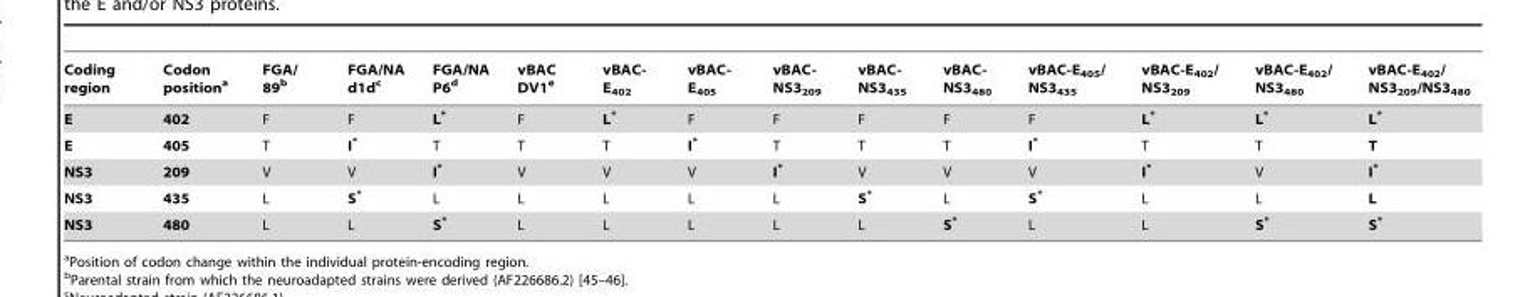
<table><thead><tr><td>Coding region</td><td>Codon position<sup>a</sup></td><td>FGA/ 89<sup>b</sup></td><td>FGA/NA d1d<sup>c</sup></td><td>FGA/NA P6<sup>d</sup></td><td>vBAC DV1<sup>e</sup></td><td>vBAC- E<sub>402</sub></td><td>vBAC- E<sub>405</sub></td><td>vBAC- NS3<sub>209</sub></td><td>vBAC- NS3<sub>435</sub></td><td>vBAC- NS3<sub>480</sub></td><td>vBAC-E<sub>405</sub>/ NS3<sub>435</sub></td><td>vBAC-E<sub>402</sub>/ NS3<sub>209</sub></td><td>vBAC-E<sub>402</sub>/ NS3<sub>480</sub></td><td>vBAC-E<sub>402</sub>/ NS3<sub>209</sub>/NS3<sub>480</sub></td></tr></thead><tbody><tr><td>E</td><td>402</td><td>F</td><td>F</td><td>L*</td><td>F</td><td>L*</td><td>F</td><td>F</td><td>F</td><td>F</td><td>F</td><td>L*</td><td>L*</td><td>L*</td></tr><tr><td>E</td><td>405</td><td>T</td><td>I*</td><td>T</td><td>T</td><td>T</td><td>I*</td><td>T</td><td>T</td><td>T</td><td>I*</td><td>T</td><td>T</td><td>T</td></tr><tr><td>NS3</td><td>209</td><td>V</td><td>V</td><td>I*</td><td>V</td><td>V</td><td>V</td><td>I*</td><td>V</td><td>V</td><td>V</td><td>I*</td><td>V</td><td>I*</td></tr><tr><td>NS3</td><td>435</td><td>L</td><td>S*</td><td>L</td><td>L</td><td>L</td><td>L</td><td>L</td><td>S*</td><td>L</td><td>S*</td><td>L</td><td>L</td><td>L</td></tr><tr><td>NS3</td><td>480</td><td>L</td><td>L</td><td>S*</td><td>L</td><td>L</td><td>L</td><td>L</td><td>L</td><td>S*</td><td>L</td><td>L</td><td>S*</td><td>S*</td></tr></tbody></table>